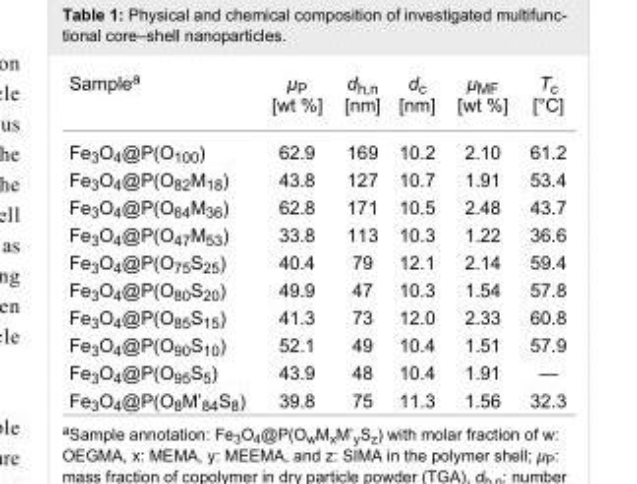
<table><tbody><tr><td>Sample<sup>a</sup></td><td>μ<sub>P</sub> [wt %]</td><td>d<sub>h,n</sub> [nm]</td><td>d<sub>c</sub> [nm]</td><td>μ<sub>MF</sub> [wt %]</td><td>T<sub>c</sub> [°C]</td></tr><tr><td>Fe<sub>3</sub>O<sub>4</sub>@P(O<sub>100</sub>)</td><td>62.9</td><td>169</td><td>10.2</td><td>2.10</td><td>61.2</td></tr><tr><td>Fe<sub>3</sub>O<sub>4</sub>@P(O<sub>82</sub>M<sub>18</sub>)</td><td>43.8</td><td>127</td><td>10.7</td><td>1.91</td><td>53.4</td></tr><tr><td>Fe<sub>3</sub>O<sub>4</sub>@P(O<sub>64</sub>M<sub>36</sub>)</td><td>62.8</td><td>171</td><td>10.5</td><td>2.48</td><td>43.7</td></tr><tr><td>Fe<sub>3</sub>O<sub>4</sub>@P(O<sub>47</sub>M<sub>53</sub>)</td><td>33.8</td><td>113</td><td>10.3</td><td>1.22</td><td>36.6</td></tr><tr><td>Fe<sub>3</sub>O<sub>4</sub>@P(O<sub>75</sub>S<sub>25</sub>)</td><td>40.4</td><td>79</td><td>12.1</td><td>2.14</td><td>59.4</td></tr><tr><td>Fe<sub>3</sub>O<sub>4</sub>@P(O<sub>80</sub>S<sub>20</sub>)</td><td>49.9</td><td>47</td><td>10.3</td><td>1.54</td><td>57.8</td></tr><tr><td>Fe<sub>3</sub>O<sub>4</sub>@P(O<sub>85</sub>S<sub>15</sub>)</td><td>41.3</td><td>73</td><td>12.0</td><td>2.33</td><td>60.8</td></tr><tr><td>Fe<sub>3</sub>O<sub>4</sub>@P(O<sub>90</sub>S<sub>10</sub>)</td><td>52.1</td><td>49</td><td>10.4</td><td>1.51</td><td>57.9</td></tr><tr><td>Fe<sub>3</sub>O<sub>4</sub>@P(O<sub>95</sub>S<sub>5</sub>)</td><td>43.9</td><td>48</td><td>10.4</td><td>1.91</td><td>—</td></tr><tr><td>Fe<sub>3</sub>O<sub>4</sub>@P(O<sub>8</sub>M’<sub>84</sub>S<sub>8</sub>)</td><td>39.8</td><td>75</td><td>11.3</td><td>1.56</td><td>32.3</td></tr></tbody></table>